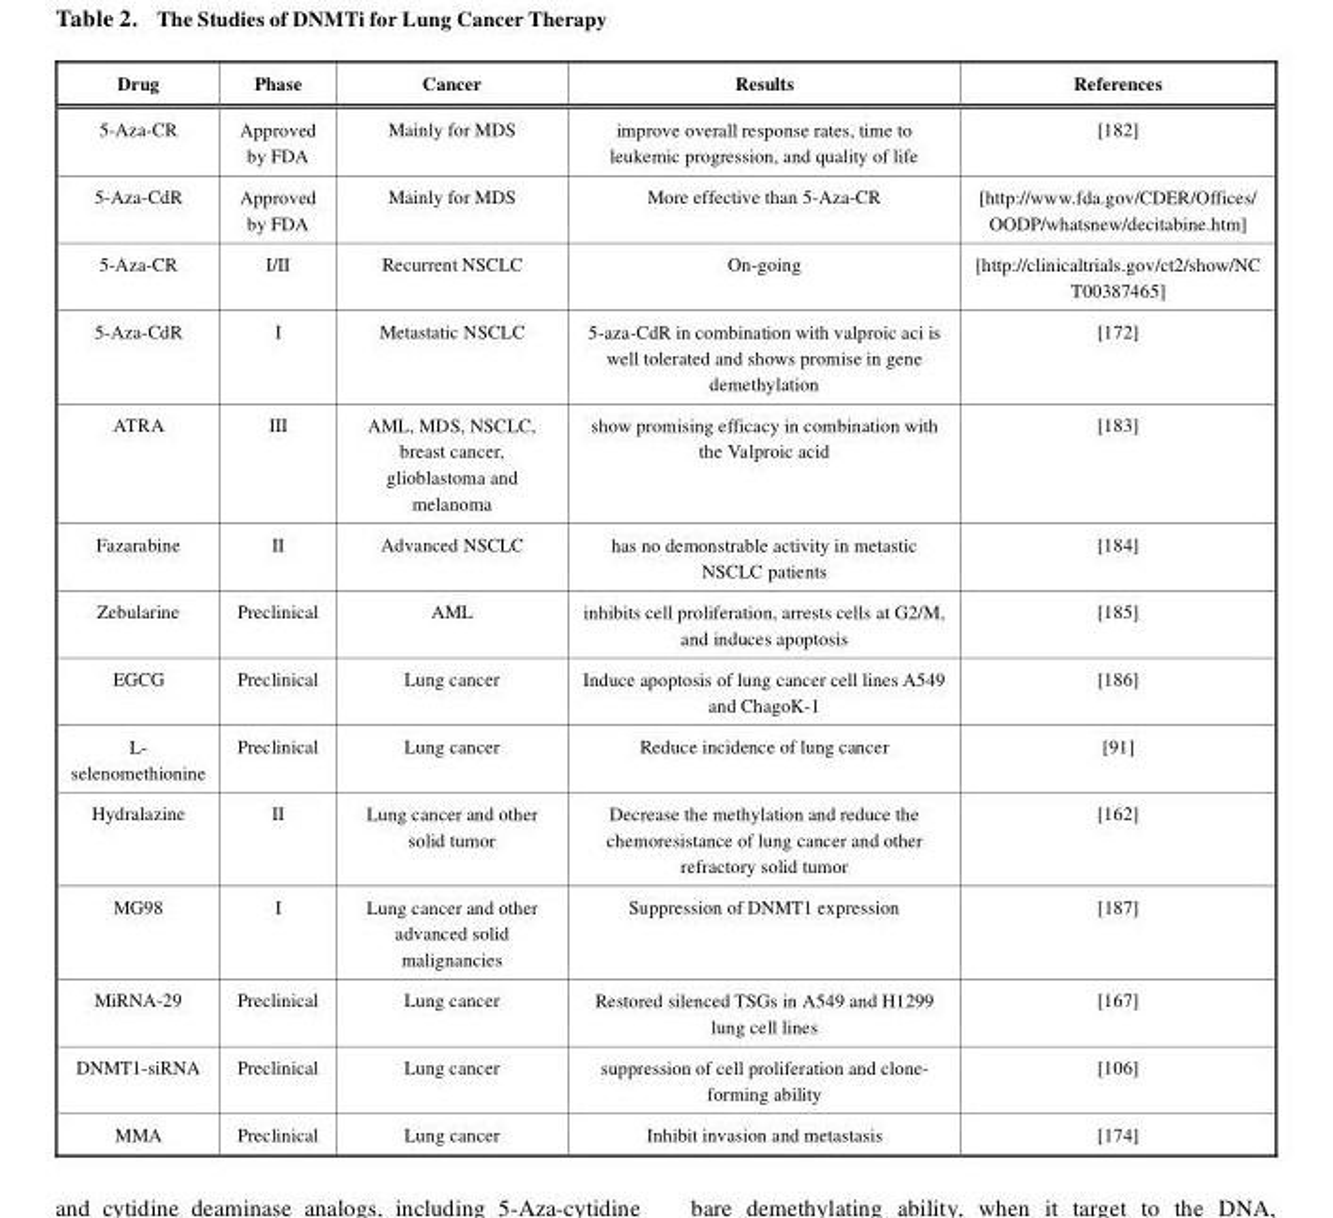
<table><thead><tr><td>Drug</td><td>Phase</td><td>Cancer</td><td>Results</td><td>References</td></tr></thead><tbody><tr><td>5-Aza-CR</td><td>Approved by FDA</td><td>Mainly for MDS</td><td>improve overall response rates, time to leukemic progression, and quality of life</td><td>[182]</td></tr><tr><td>5-Aza-CdR</td><td>Approved by FDA</td><td>Mainly for MDS</td><td>More effective than 5-Aza-CR</td><td>[http://www.fda.gov/CDER/Offices/ OODP/whatsnew/decitabine.htm]</td></tr><tr><td>5-Aza-CR</td><td>I/II</td><td>Recurrent NSCLC</td><td>On-going</td><td>[http://clinicaltrials.gov/ct2/show/NC T00387465]</td></tr><tr><td>5-Aza-CdR</td><td>I</td><td>Metastatic NSCLC</td><td>5-aza-CdR in combination with valproic aci is well tolerated and shows promise in gene demethylation</td><td>[172]</td></tr><tr><td>ATRA</td><td>III</td><td>AML, MDS, NSCLC, breast cancer, glioblastoma and melanoma</td><td>show promising efficacy in combination with the Valproic acid</td><td>[183]</td></tr><tr><td>Fazarabine</td><td>II</td><td>Advanced NSCLC</td><td>has no demonstrable activity in metastic NSCLC patients</td><td>[184]</td></tr><tr><td>Zebularine</td><td>Preclinical</td><td>AML</td><td>inhibits cell proliferation, arrests cells at G2/M, and induces apoptosis</td><td>[185]</td></tr><tr><td>EGCG</td><td>Preclinical</td><td>Lung cancer</td><td>Induce apoptosis of lung cancer cell lines A549 and ChagoK-1</td><td>[186]</td></tr><tr><td>L- selenomethionine</td><td>Preclinical</td><td>Lung cancer</td><td>Reduce incidence of lung cancer</td><td>[91]</td></tr><tr><td>Hydralazine</td><td>II</td><td>Lung cancer and other solid tumor</td><td>Decrease the methylation and reduce the chemoresistance of lung cancer and other refractory solid tumor</td><td>[162]</td></tr><tr><td>MG98</td><td>I</td><td>Lung cancer and other advanced solid malignancies</td><td>Suppression of DNMT1 expression</td><td>[187]</td></tr><tr><td>MiRNA-29</td><td>Preclinical</td><td>Lung cancer</td><td>Restored silenced TSGs in A549 and H1299 lung cell lines</td><td>[167]</td></tr><tr><td>DNMT1-siRNA</td><td>Preclinical</td><td>Lung cancer</td><td>suppression of cell proliferation and clone- forming ability</td><td>[106]</td></tr><tr><td>MMA</td><td>Preclinical</td><td>Lung cancer</td><td>Inhibit invasion and metastasis</td><td>[174]</td></tr></tbody></table>